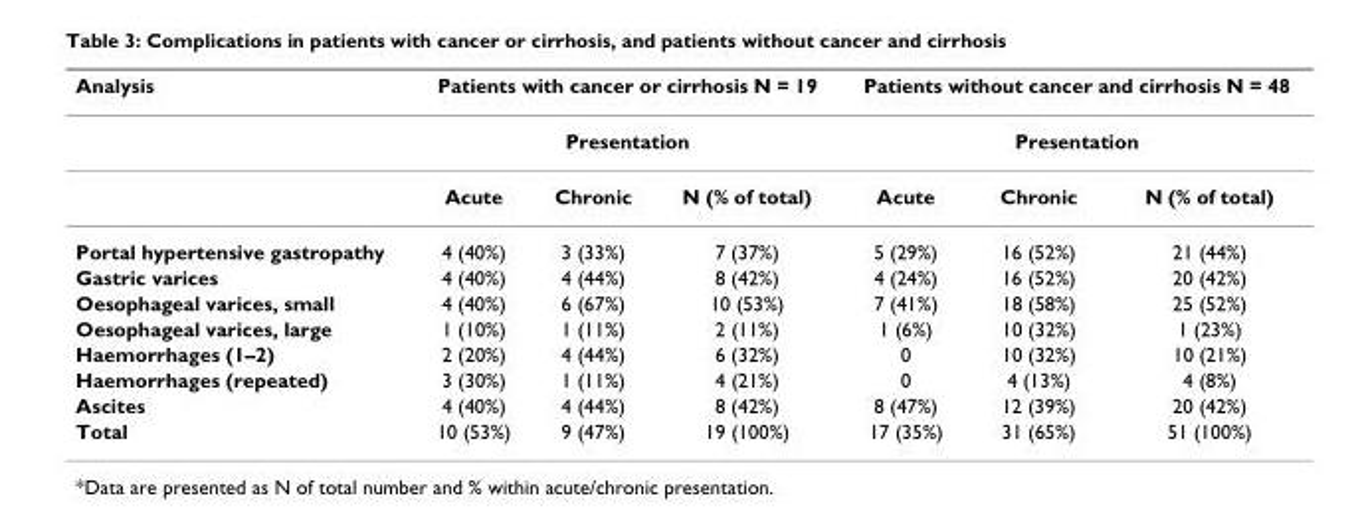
<table><thead><tr><td rowspan="3">Analysis</td><td rowspan="2" colspan="3">Patients with cancer or cirrhosis N = 19 Presentation</td><td rowspan="2" colspan="3">Patients without cancer and cirrhosis N = 48 Presentation</td></tr><tr></tr><tr><td>Acute</td><td>Chronic</td><td>N (% of total)</td><td>Acute</td><td>Chronic</td><td>N (% of total)</td></tr></thead><tbody><tr><td>Portal hypertensive gastropathy</td><td>4 (40%)</td><td>3 (33%)</td><td>7 (37%)</td><td>5 (29%)</td><td>16 (52%)</td><td>21 (44%)</td></tr><tr><td>Gastric varices</td><td>4 (40%)</td><td>4 (44%)</td><td>8 (42%)</td><td>4 (24%)</td><td>16 (52%)</td><td>20 (42%)</td></tr><tr><td>Oesophageal varices, small</td><td>4 (40%)</td><td>6 (67%)</td><td>10 (53%)</td><td>7 (41%)</td><td>18 (58%)</td><td>25 (52%)</td></tr><tr><td>Oesophageal varices, large</td><td>1 (10%)</td><td>1 (11%)</td><td>2 (11%)</td><td>1 (6%)</td><td>10 (32%)</td><td>1 (23%)</td></tr><tr><td>Haemorrhages (1–2)</td><td>2 (20%)</td><td>4 (44%)</td><td>6 (32%)</td><td>0</td><td>10 (32%)</td><td>10 (21%)</td></tr><tr><td>Haemorrhages (repeated)</td><td>3 (30%)</td><td>1 (11%)</td><td>4 (21%)</td><td>0</td><td>4 (13%)</td><td>4 (8%)</td></tr><tr><td>Ascites</td><td>4 (40%)</td><td>4 (44%)</td><td>8 (42%)</td><td>8 (47%)</td><td>12 (39%)</td><td>20 (42%)</td></tr><tr><td>Total</td><td>10 (53%)</td><td>9 (47%)</td><td>19 (100%)</td><td>17 (35%)</td><td>31 (65%)</td><td>51 (100%)</td></tr></tbody></table>